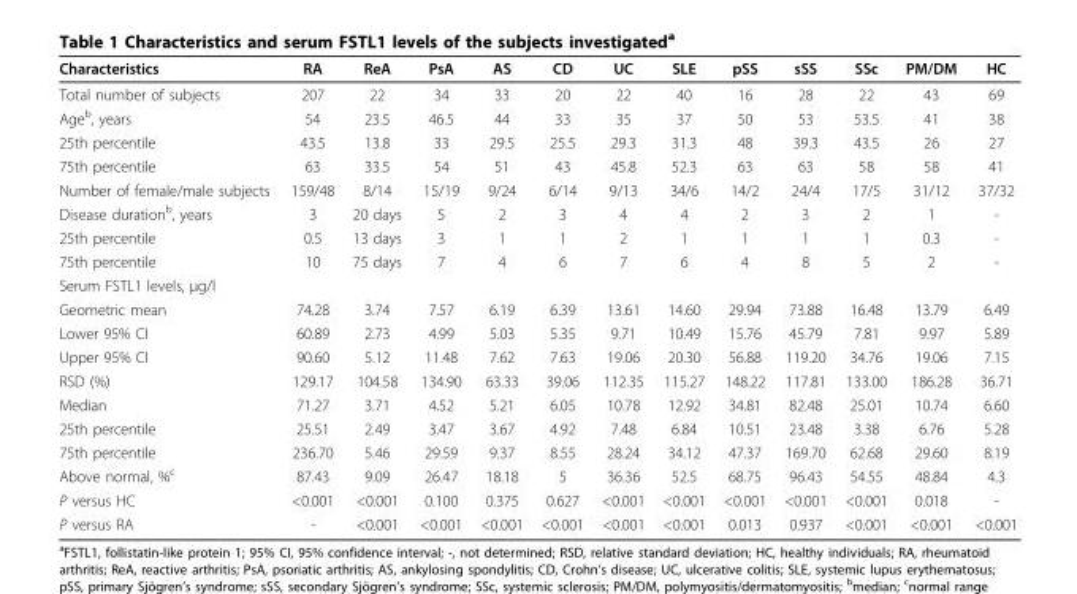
<table><thead><tr><td>Characteristics</td><td>RA</td><td>ReA</td><td>PsA</td><td>AS</td><td>CD</td><td>UC</td><td>SLE</td><td>pSS</td><td>sSS</td><td>SSc</td><td>PM/DM</td><td>HC</td></tr></thead><tbody><tr><td>Total number of subjects</td><td>207</td><td>22</td><td>34</td><td>33</td><td>20</td><td>22</td><td>40</td><td>16</td><td>28</td><td>22</td><td>43</td><td>69</td></tr><tr><td>Age<sup>b</sup>, years</td><td>54</td><td>23.5</td><td>46.5</td><td>44</td><td>33</td><td>35</td><td>37</td><td>50</td><td>53</td><td>53.5</td><td>41</td><td>38</td></tr><tr><td>25th percentile</td><td>43.5</td><td>13.8</td><td>33</td><td>29.5</td><td>25.5</td><td>29.3</td><td>31.3</td><td>48</td><td>39.3</td><td>43.5</td><td>26</td><td>27</td></tr><tr><td>75th percentile</td><td>63</td><td>33.5</td><td>54</td><td>51</td><td>43</td><td>45.8</td><td>52.3</td><td>63</td><td>63</td><td>58</td><td>58</td><td>41</td></tr><tr><td>Number of female/male subjects</td><td>159/48</td><td>8/14</td><td>15/19</td><td>9/24</td><td>6/14</td><td>9/13</td><td>34/6</td><td>14/2</td><td>24/4</td><td>17/5</td><td>31/12</td><td>37/32</td></tr><tr><td>Disease duration<sup>b</sup>, years</td><td>3</td><td>20 days</td><td>5</td><td>2</td><td>3</td><td>4</td><td>4</td><td>2</td><td>3</td><td>2</td><td>1</td><td>-</td></tr><tr><td>25th percentile</td><td>0.5</td><td>13 days</td><td>3</td><td>1</td><td>1</td><td>2</td><td>1</td><td>1</td><td>1</td><td>1</td><td>0.3</td><td>-</td></tr><tr><td>75th percentile</td><td>10</td><td>75 days</td><td>7</td><td>4</td><td>6</td><td>7</td><td>6</td><td>4</td><td>8</td><td>5</td><td>2</td><td>-</td></tr><tr><td colspan="13">Serum FSTL1 levels, μg/l</td></tr><tr><td>Geometric mean</td><td>74.28</td><td>3.74</td><td>7.57</td><td>6.19</td><td>6.39</td><td>13.61</td><td>14.60</td><td>29.94</td><td>73.88</td><td>16.48</td><td>13.79</td><td>6.49</td></tr><tr><td>Lower 95% CI</td><td>60.89</td><td>2.73</td><td>4.99</td><td>5.03</td><td>5.35</td><td>9.71</td><td>10.49</td><td>15.76</td><td>45.79</td><td>7.81</td><td>9.97</td><td>5.89</td></tr><tr><td>Upper 95% CI</td><td>90.60</td><td>5.12</td><td>11.48</td><td>7.62</td><td>7.63</td><td>19.06</td><td>20.30</td><td>56.88</td><td>119.20</td><td>34.76</td><td>19.06</td><td>7.15</td></tr><tr><td>RSD (%)</td><td>129.17</td><td>104.58</td><td>134.90</td><td>63.33</td><td>39.06</td><td>112.35</td><td>115.27</td><td>148.22</td><td>117.81</td><td>133.00</td><td>186.28</td><td>36.71</td></tr><tr><td>Median</td><td>71.27</td><td>3.71</td><td>4.52</td><td>5.21</td><td>6.05</td><td>10.78</td><td>12.92</td><td>34.81</td><td>82.48</td><td>25.01</td><td>10.74</td><td>6.60</td></tr><tr><td>25th percentile</td><td>25.51</td><td>2.49</td><td>3.47</td><td>3.67</td><td>4.92</td><td>7.48</td><td>6.84</td><td>10.51</td><td>23.48</td><td>3.38</td><td>6.76</td><td>5.28</td></tr><tr><td>75th percentile</td><td>236.70</td><td>5.46</td><td>29.59</td><td>9.37</td><td>8.55</td><td>28.24</td><td>34.12</td><td>47.37</td><td>169.70</td><td>62.68</td><td>29.60</td><td>8.19</td></tr><tr><td>Above normal, %<sup>c</sup></td><td>87.43</td><td>9.09</td><td>26.47</td><td>18.18</td><td>5</td><td>36.36</td><td>52.5</td><td>68.75</td><td>96.43</td><td>54.55</td><td>48.84</td><td>4.3</td></tr><tr><td>P versus HC</td><td>&lt;0.001</td><td>&lt;0.001</td><td>0.100</td><td>0.375</td><td>0.627</td><td>&lt;0.001</td><td>&lt;0.001</td><td>&lt;0.001</td><td>&lt;0.001</td><td>&lt;0.001</td><td>0.018</td><td>-</td></tr><tr><td>P versus RA</td><td>-</td><td>&lt;0.001</td><td>&lt;0.001</td><td>&lt;0.001</td><td>&lt;0.001</td><td>&lt;0.001</td><td>&lt;0.001</td><td>0.013</td><td>0.937</td><td>&lt;0.001</td><td>&lt;0.001</td><td>&lt;0.001</td></tr></tbody></table>